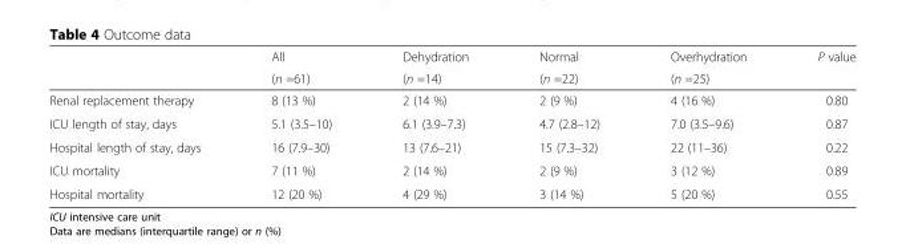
<table><thead><tr><td rowspan="2"></td><td rowspan="2">All (n =61)</td><td rowspan="2">Dehydration (n =14)</td><td rowspan="2">Normal (n =22)</td><td rowspan="2">Overhydration (n =25)</td><td rowspan="2">P value</td></tr><tr></tr></thead><tbody><tr><td>Renal replacement therapy</td><td>8 (13 %)</td><td>2 (14 %)</td><td>2 (9 %)</td><td>4 (16 %)</td><td>0.80</td></tr><tr><td>ICU length of stay, days</td><td>5.1 (3.5–10)</td><td>6.1 (3.9–7.3)</td><td>4.7 (2.8–12)</td><td>7.0 (3.5–9.6)</td><td>0.87</td></tr><tr><td>Hospital length of stay, days</td><td>16 (7.9–30)</td><td>13 (7.6–21)</td><td>15 (7.3–32)</td><td>22 (11–36)</td><td>0.22</td></tr><tr><td>ICU mortality</td><td>7 (11 %)</td><td>2 (14 %)</td><td>2 (9 %)</td><td>3 (12 %)</td><td>0.89</td></tr><tr><td>Hospital mortality</td><td>12 (20 %)</td><td>4 (29 %)</td><td>3 (14 %)</td><td>5 (20 %)</td><td>0.55</td></tr></tbody></table>